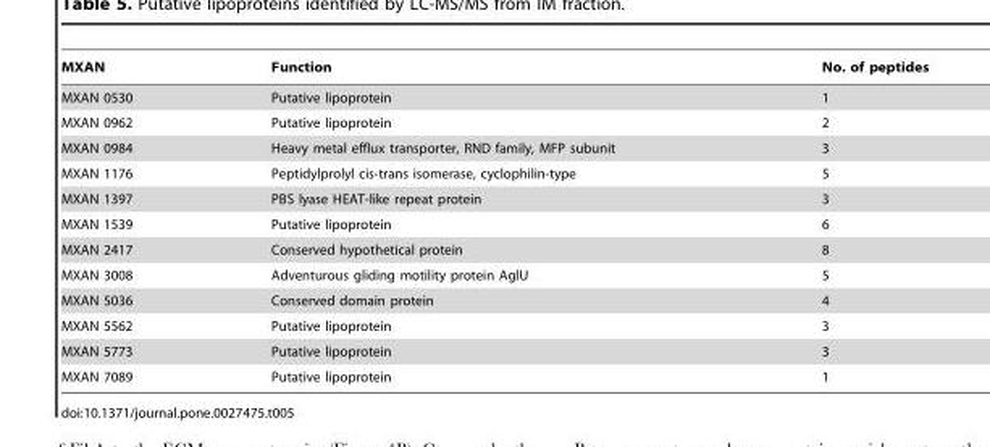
<table><thead><tr><td>MXAN</td><td>Function</td><td>No. of peptides</td></tr></thead><tbody><tr><td>MXAN 0530</td><td>Putative lipoprotein</td><td>1</td></tr><tr><td>MXAN 0962</td><td>Putative lipoprotein</td><td>2</td></tr><tr><td>MXAN 0984</td><td>Heavy metal efflux transporter, RND family, MFP subunit</td><td>3</td></tr><tr><td>MXAN 1176</td><td>Peptidylprolyl cis-trans isomerase, cyclophilin-type</td><td>5</td></tr><tr><td>MXAN 1397</td><td>PBS lyase HEAT-like repeat protein</td><td>3</td></tr><tr><td>MXAN 1539</td><td>Putative lipoprotein</td><td>6</td></tr><tr><td>MXAN 2417</td><td>Conserved hypothetical protein</td><td>8</td></tr><tr><td>MXAN 3008</td><td>Adventurous gliding motility protein AglU</td><td>5</td></tr><tr><td>MXAN 5036</td><td>Conserved domain protein</td><td>4</td></tr><tr><td>MXAN 5562</td><td>Putative lipoprotein</td><td>3</td></tr><tr><td>MXAN 5773</td><td>Putative lipoprotein</td><td>3</td></tr><tr><td>MXAN 7089</td><td>Putative lipoprotein</td><td>1</td></tr></tbody></table>